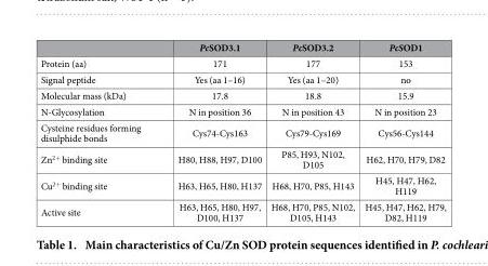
<table><thead><tr><td></td><td>PcSOD3.1</td><td>PcSOD3.2</td><td>PcSOD1</td></tr></thead><tbody><tr><td>Protein (aa)</td><td>171</td><td>177</td><td>153</td></tr><tr><td>Signal peptide</td><td>Yes (aa 1–16)</td><td>Yes (aa 1–20)</td><td>no</td></tr><tr><td>Molecular mass (kDa)</td><td>17.8</td><td>18.8</td><td>15.9</td></tr><tr><td>N-Glycosylation</td><td>N in position 36</td><td>N in position 43</td><td>N in position 23</td></tr><tr><td>Cysteine residues forming disulphide bonds</td><td>Cys74-Cys163</td><td>Cys79-Cys169</td><td>Cys56-Cys144</td></tr><tr><td>Zn<sup>2+</sup> binding site</td><td>H80, H88, H97, D100</td><td>P85, H93, N102, D105</td><td>H62, H70, H79, D82</td></tr><tr><td>Cu<sup>2+</sup> binding site</td><td>H63, H65, H80, H137</td><td>H68, H70, P85, H143</td><td>H45, H47, H62, H119</td></tr><tr><td>Active site</td><td>H63, H65, H80, H97, D100, H137</td><td>H68, H70, P85, N102, D105, H143</td><td>H45, H47, H62, H79, D82, H119</td></tr></tbody></table>